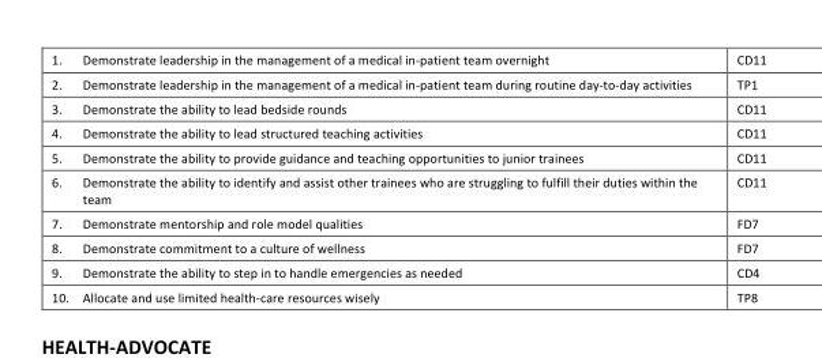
<table><tbody><tr><td>1.</td><td>Demonstrate leadership in the management of a medical in-patient team overnight</td><td>CD11</td></tr><tr><td>2.</td><td>Demonstrate leadership in the management of a medical in-patient team during routine day-to-day activities</td><td>TP1</td></tr><tr><td>3.</td><td>Demonstrate the ability to lead bedside rounds</td><td>CD11</td></tr><tr><td>4.</td><td>Demonstrate the ability to lead structured teaching activities</td><td>CD11</td></tr><tr><td>5.</td><td>Demonstrate the ability to provide guidance and teaching opportunities to junior trainees</td><td>CD11</td></tr><tr><td>6.</td><td>Demonstrate the ability to identify and assist other trainees who are struggling to fulfill their duties within the team</td><td>CD11</td></tr><tr><td>7.</td><td>Demonstrate mentorship and role model qualities</td><td>FD7</td></tr><tr><td>8.</td><td>Demonstrate commitment to a culture of wellness</td><td>FD7</td></tr><tr><td>9.</td><td>Demonstrate the ability to step in to handle emergencies as needed</td><td>CD4</td></tr><tr><td>10.</td><td>Allocate and use limited health-care resources wisely</td><td>TP8</td></tr></tbody></table>